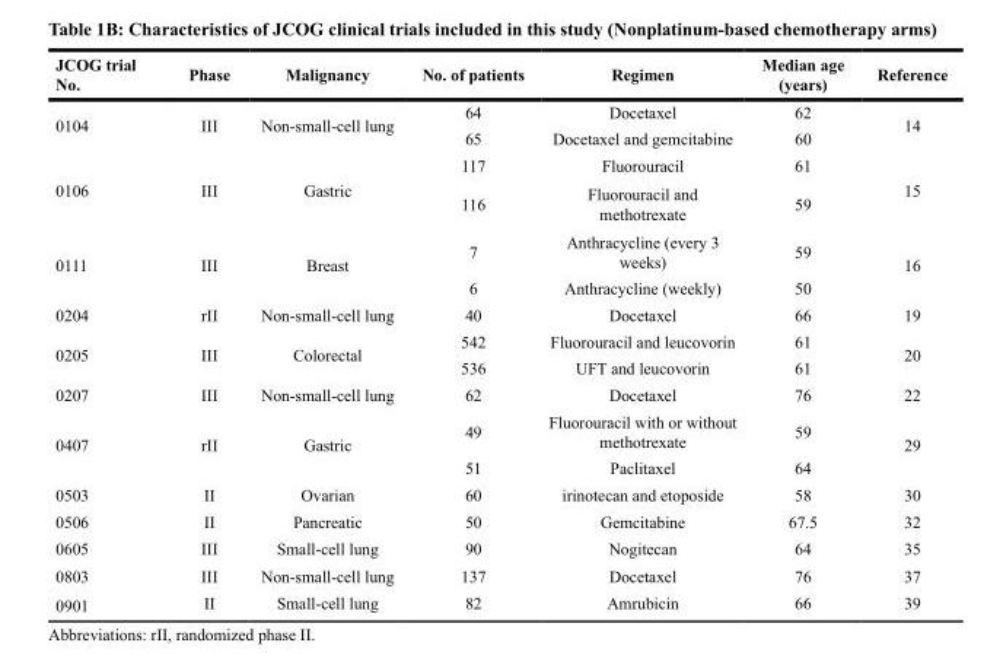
<table><thead><tr><td>JCOG trial No.</td><td>Phase</td><td>Malignancy</td><td>No. of patients</td><td>Regimen</td><td>Median age (years)</td><td>Reference</td></tr></thead><tbody><tr><td rowspan="2">0104</td><td rowspan="2">III</td><td rowspan="2">Non-small-cell lung</td><td>64</td><td>Docetaxel</td><td>62</td><td rowspan="2">14</td></tr><tr><td>65</td><td>Docetaxel and gemcitabine</td><td>60</td></tr><tr><td rowspan="2">0106</td><td rowspan="2">III</td><td rowspan="2">Gastric</td><td>117</td><td>Fluorouracil</td><td>61</td><td rowspan="2">15</td></tr><tr><td>116</td><td>Fluorouracil and methotrexate</td><td>59</td></tr><tr><td rowspan="2">0111</td><td rowspan="2">III</td><td rowspan="2">Breast</td><td>7</td><td>Anthracycline (every 3 weeks)</td><td>59</td><td rowspan="2">16</td></tr><tr><td>6</td><td>Anthracycline (weekly)</td><td>50</td></tr><tr><td>0204</td><td>rII</td><td>Non-small-cell lung</td><td>40</td><td>Docetaxel</td><td>66</td><td>19</td></tr><tr><td rowspan="2">0205</td><td rowspan="2">III</td><td rowspan="2">Colorectal</td><td>542</td><td>Fluorouracil and leucovorin</td><td>61</td><td rowspan="2">20</td></tr><tr><td>536</td><td>UFT and leucovorin</td><td>61</td></tr><tr><td>0207</td><td>III</td><td>Non-small-cell lung</td><td>62</td><td>Docetaxel</td><td>76</td><td>22</td></tr><tr><td rowspan="2">0407</td><td rowspan="2">rII</td><td rowspan="2">Gastric</td><td>49</td><td>Fluorouracil with or without methotrexate</td><td>59</td><td rowspan="2">29</td></tr><tr><td>51</td><td>Paclitaxel</td><td>64</td></tr><tr><td>0503</td><td>II</td><td>Ovarian</td><td>60</td><td>irinotecan and etoposide</td><td>58</td><td>30</td></tr><tr><td>0506</td><td>II</td><td>Pancreatic</td><td>50</td><td>Gemcitabine</td><td>67.5</td><td>32</td></tr><tr><td>0605</td><td>III</td><td>Small-cell lung</td><td>90</td><td>Nogitecan</td><td>64</td><td>35</td></tr><tr><td>0803</td><td>III</td><td>Non-small-cell lung</td><td>137</td><td>Docetaxel</td><td>76</td><td>37</td></tr><tr><td>0901</td><td>II</td><td>Small-cell lung</td><td>82</td><td>Amrubicin</td><td>66</td><td>39</td></tr></tbody></table>